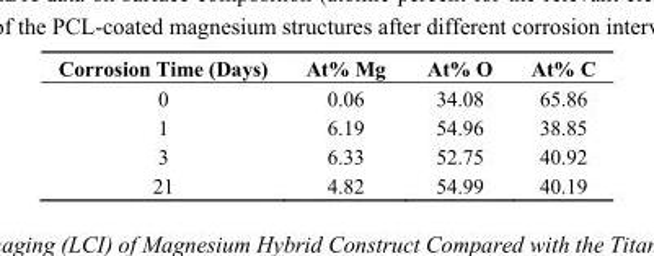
<table><thead><tr><td>Corrosion Time (Days)</td><td>At% Mg</td><td>At% O</td><td>At% C</td></tr></thead><tbody><tr><td>0</td><td>0.06</td><td>34.08</td><td>65.86</td></tr><tr><td>1</td><td>6.19</td><td>54.96</td><td>38.85</td></tr><tr><td>3</td><td>6.33</td><td>52.75</td><td>40.92</td></tr><tr><td>21</td><td>4.82</td><td>54.99</td><td>40.19</td></tr></tbody></table>